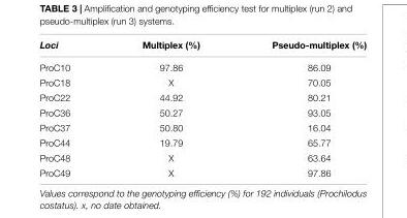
<table><thead><tr><td>Loci</td><td>Multiplex (%)</td><td>Pseudo-multiplex (%)</td></tr></thead><tbody><tr><td>ProC10</td><td>97.86</td><td>86.09</td></tr><tr><td>ProC18</td><td>X</td><td>70.05</td></tr><tr><td>ProC22</td><td>44.92</td><td>80.21</td></tr><tr><td>ProC36</td><td>50.27</td><td>93.05</td></tr><tr><td>ProC37</td><td>50.80</td><td>16.04</td></tr><tr><td>ProC44</td><td>19.79</td><td>65.77</td></tr><tr><td>ProC48</td><td>X</td><td>63.64</td></tr><tr><td>ProC49</td><td>X</td><td>97.86</td></tr></tbody></table>